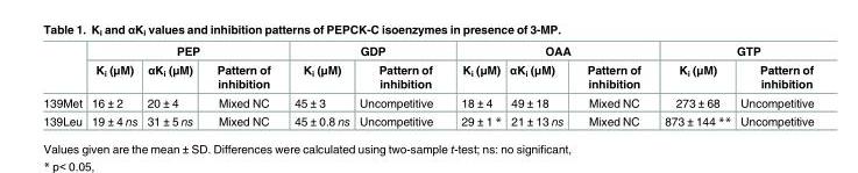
<table><thead><tr><td rowspan="2"></td><td colspan="3">PEP</td><td colspan="2">GDP</td><td colspan="3">OAA</td><td colspan="2">GTP</td></tr><tr><td>K<sub>i</sub> (μM)</td><td>αK<sub>i</sub> (μM)</td><td>Pattern of inhibition</td><td>K<sub>i</sub> (μM)</td><td>Pattern of inhibition</td><td>K<sub>i</sub> (μM)</td><td>αK<sub>i</sub> (μM)</td><td>Pattern of inhibition</td><td>K<sub>i</sub> (μM)</td><td>Pattern of inhibition</td></tr></thead><tbody><tr><td>139Met</td><td>16 ± 2</td><td>20 ± 4</td><td>Mixed NC</td><td>45 ± 3</td><td>Uncompetitive</td><td>18 ± 4</td><td>49 ± 18</td><td>Mixed NC</td><td>273 ± 68</td><td>Uncompetitive</td></tr><tr><td>139Leu</td><td>19 ± 4 ns</td><td>31 ± 5 ns</td><td>Mixed NC</td><td>45 ± 0.8 ns</td><td>Uncompetitive</td><td>29 ± 1 *</td><td>21 ± 13 ns</td><td>Mixed NC</td><td>873 ± 144 **</td><td>Uncompetitive</td></tr></tbody></table>